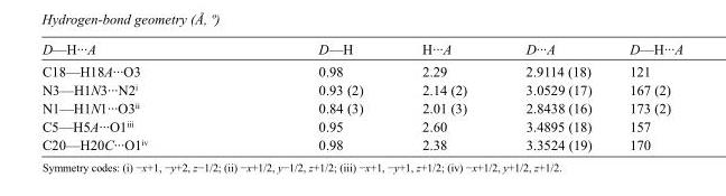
<table><tbody><tr><td>D—H···A</td><td>D—H</td><td>H···A</td><td>D···A</td><td>D—H···A</td></tr><tr><td>C18—H18A···O3</td><td>0.98</td><td>2.29</td><td>2.9114 (18)</td><td>121</td></tr><tr><td>N3—H1N3···N2<sup>i</sup></td><td>0.93 (2)</td><td>2.14 (2)</td><td>3.0529 (17)</td><td>167 (2)</td></tr><tr><td>N1—H1N1···O3<sup>ii</sup></td><td>0.84 (3)</td><td>2.01 (3)</td><td>2.8438 (16)</td><td>173 (2)</td></tr><tr><td>C5—H5A···O1<sup>iii</sup></td><td>0.95</td><td>2.60</td><td>3.4895 (18)</td><td>157</td></tr><tr><td>C20—H20C···O1<sup>iv</sup></td><td>0.98</td><td>2.38</td><td>3.3524 (19)</td><td>170</td></tr></tbody></table>